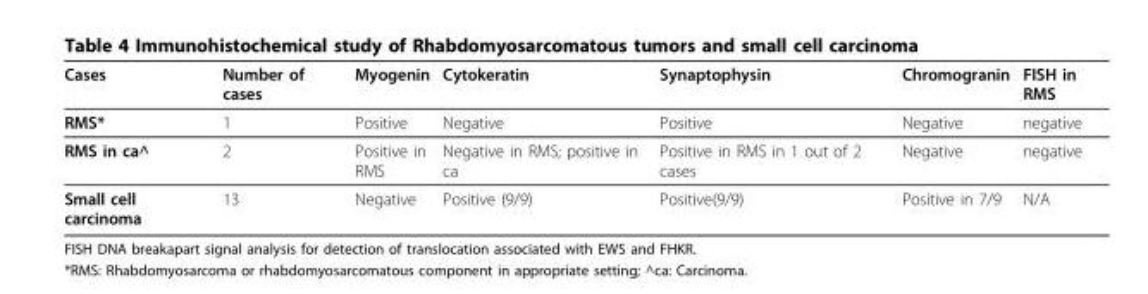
<table><thead><tr><td>Cases</td><td>Number of cases</td><td>Myogenin</td><td>Cytokeratin</td><td>Synaptophysin</td><td>Chromogranin</td><td>FISH in RMS</td></tr></thead><tbody><tr><td>RMS*</td><td>1</td><td>Positive</td><td>Negative</td><td>Positive</td><td>Negative</td><td>negative</td></tr><tr><td>RMS in ca^</td><td>2</td><td>Positive in RMS</td><td>Negative in RMS; positive in ca</td><td>Positive in RMS in 1 out of 2 cases</td><td>Negative</td><td>negative</td></tr><tr><td>Small cell carcinoma</td><td>13</td><td>Negative</td><td>Positive (9/9)</td><td>Positive(9/9)</td><td>Positive in 7/9</td><td>N/A</td></tr></tbody></table>